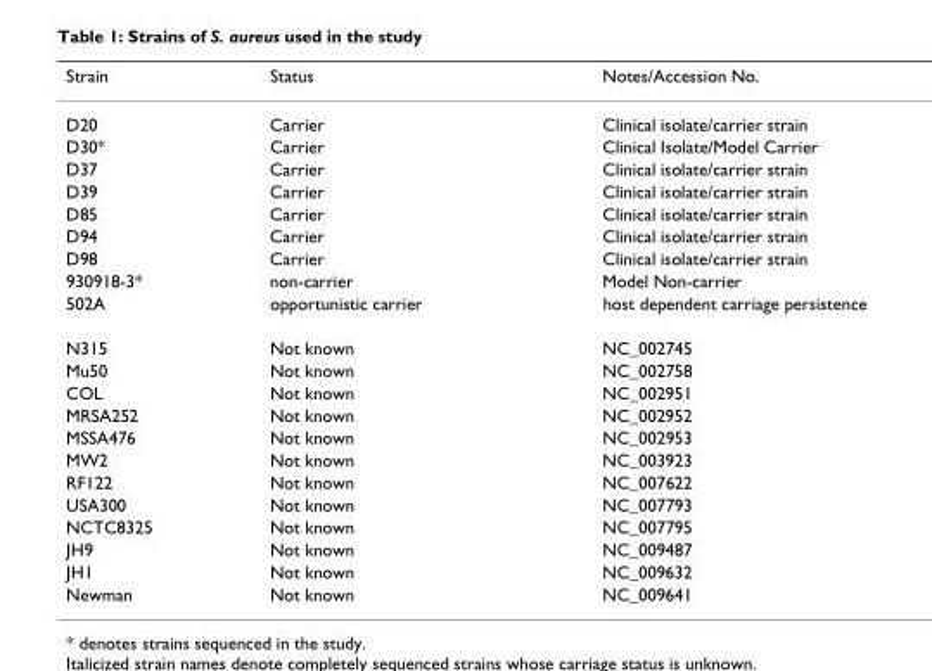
<table><thead><tr><td>Strain</td><td>Status</td><td>Notes/Accession No.</td></tr></thead><tbody><tr><td>D20</td><td>Carrier</td><td>Clinical isolate/carrier strain</td></tr><tr><td>D30*</td><td>Carrier</td><td>Clinical Isolate/Model Carrier</td></tr><tr><td>D37</td><td>Carrier</td><td>Clinical isolate/carrier strain</td></tr><tr><td>D39</td><td>Carrier</td><td>Clinical isolate/carrier strain</td></tr><tr><td>D85</td><td>Carrier</td><td>Clinical isolate/carrier strain</td></tr><tr><td>D94</td><td>Carrier</td><td>Clinical isolate/carrier strain</td></tr><tr><td>D98</td><td>Carrier</td><td>Clinical isolate/carrier strain</td></tr><tr><td>930918-3*</td><td>non-carrier</td><td>Model Non-carrier</td></tr><tr><td>502A</td><td>opportunistic carrier</td><td>host dependent carriage persistence</td></tr><tr><td>N315</td><td>Not known</td><td>NC_002745</td></tr><tr><td>Mu50</td><td>Not known</td><td>NC_002758</td></tr><tr><td>COL</td><td>Not known</td><td>NC_002951</td></tr><tr><td>MRSA252</td><td>Not known</td><td>NC_002952</td></tr><tr><td>MSSA476</td><td>Not known</td><td>NC_002953</td></tr><tr><td>MW2</td><td>Not known</td><td>NC_003923</td></tr><tr><td>RF122</td><td>Not known</td><td>NC_007622</td></tr><tr><td>USA300</td><td>Not known</td><td>NC_007793</td></tr><tr><td>NCTC8325</td><td>Not known</td><td>NC_007795</td></tr><tr><td>JH9</td><td>Not known</td><td>NC_009487</td></tr><tr><td>JH1</td><td>Not known</td><td>NC_009632</td></tr><tr><td>Newman</td><td>Not known</td><td>NC_009641</td></tr></tbody></table>